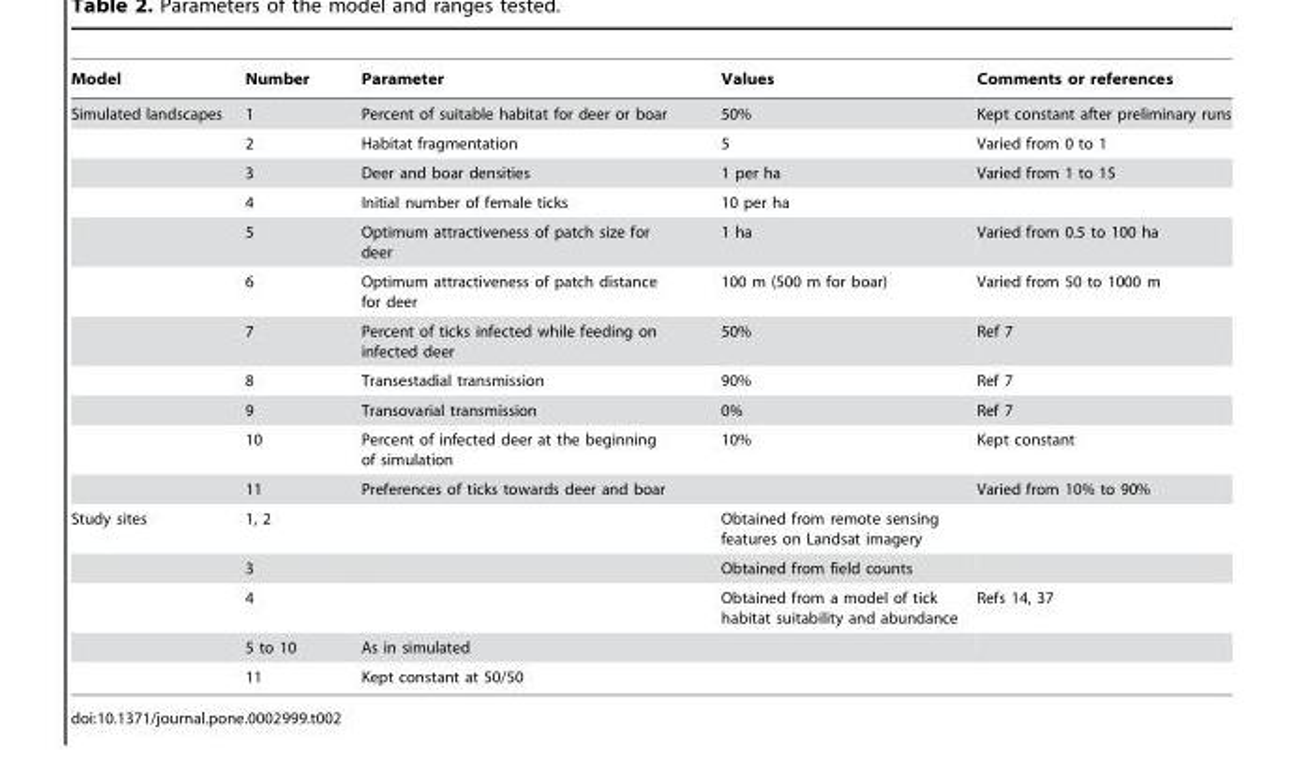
<table><thead><tr><td>Model</td><td>Number</td><td>Parameter</td><td>Values</td><td>Comments or references</td></tr></thead><tbody><tr><td rowspan="11">Simulated landscapes</td><td>1</td><td>Percent of suitable habitat for deer or boar</td><td>50%</td><td>Kept constant after preliminary runs</td></tr><tr><td>2</td><td>Habitat fragmentation</td><td>5</td><td>Varied from 0 to 1</td></tr><tr><td>3</td><td>Deer and boar densities</td><td>1 per ha</td><td>Varied from 1 to 15</td></tr><tr><td>4</td><td>Initial number of female ticks</td><td>10 per ha</td><td></td></tr><tr><td>5</td><td>Optimum attractiveness of patch size for deer</td><td>1 ha</td><td>Varied from 0.5 to 100 ha</td></tr><tr><td>6</td><td>Optimum attractiveness of patch distance for deer</td><td>100 m (500 m for boar)</td><td>Varied from 50 to 1000 m</td></tr><tr><td>7</td><td>Percent of ticks infected while feeding on infected deer</td><td>50%</td><td>Ref 7</td></tr><tr><td>8</td><td>Transestadial transmission</td><td>90%</td><td>Ref 7</td></tr><tr><td>9</td><td>Transovarial transmission</td><td>0%</td><td>Ref 7</td></tr><tr><td>10</td><td>Percent of infected deer at the beginning of simulation</td><td>10%</td><td>Kept constant</td></tr><tr><td>11</td><td>Preferences of ticks towards deer and boar</td><td></td><td>Varied from 10% to 90%</td></tr><tr><td rowspan="5">Study sites</td><td>1, 2</td><td></td><td>Obtained from remote sensing features on Landsat imagery</td><td></td></tr><tr><td>3</td><td></td><td>Obtained from field counts</td><td></td></tr><tr><td>4</td><td></td><td>Obtained from a model of tick habitat suitability and abundance</td><td>Refs 14, 37</td></tr><tr><td>5 to 10</td><td>As in simulated</td><td></td><td></td></tr><tr><td>11</td><td>Kept constant at 50/50</td><td></td><td></td></tr></tbody></table>